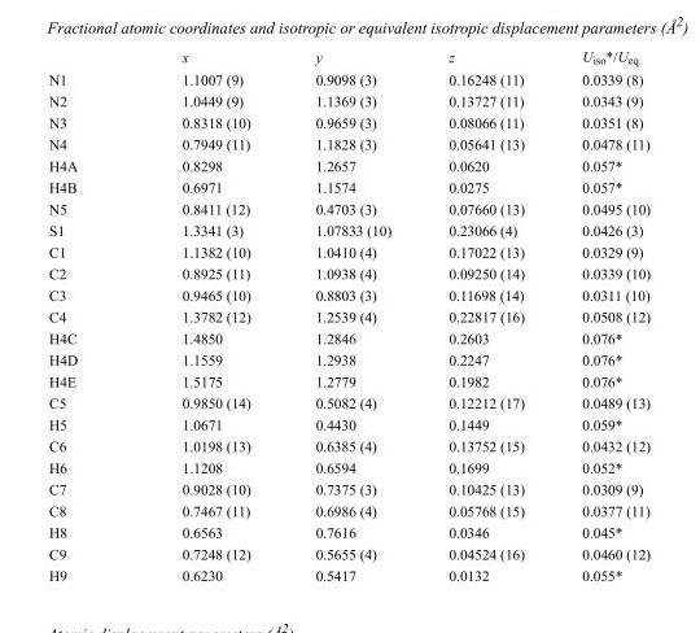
<table><thead><tr><td></td><td>x</td><td>y</td><td>z</td><td>U<sub>iso</sub>*/U<sub>eq</sub></td></tr></thead><tbody><tr><td>N1</td><td>1.1007 (9)</td><td>0.9098 (3)</td><td>0.16248 (11)</td><td>0.0339 (8)</td></tr><tr><td>N2</td><td>1.0449 (9)</td><td>1.1369 (3)</td><td>0.13727 (11)</td><td>0.0343 (9)</td></tr><tr><td>N3</td><td>0.8318 (10)</td><td>0.9659 (3)</td><td>0.08066 (11)</td><td>0.0351 (8)</td></tr><tr><td>N4</td><td>0.7949 (11)</td><td>1.1828 (3)</td><td>0.05641 (13)</td><td>0.0478 (11)</td></tr><tr><td>H4A</td><td>0.8298</td><td>1.2657</td><td>0.0620</td><td>0.057*</td></tr><tr><td>H4B</td><td>0.6971</td><td>1.1574</td><td>0.0275</td><td>0.057*</td></tr><tr><td>N5</td><td>0.8411 (12)</td><td>0.4703 (3)</td><td>0.07660 (13)</td><td>0.0495 (10)</td></tr><tr><td>S1</td><td>1.3341 (3)</td><td>1.07833 (10)</td><td>0.23066 (4)</td><td>0.0426 (3)</td></tr><tr><td>C1</td><td>1.1382 (10)</td><td>1.0410 (4)</td><td>0.17022 (13)</td><td>0.0329 (9)</td></tr><tr><td>C2</td><td>0.8925 (11)</td><td>1.0938 (4)</td><td>0.09250 (14)</td><td>0.0339 (10)</td></tr><tr><td>C3</td><td>0.9465 (10)</td><td>0.8803 (3)</td><td>0.11698 (14)</td><td>0.0311 (10)</td></tr><tr><td>C4</td><td>1.3782 (12)</td><td>1.2539 (4)</td><td>0.22817 (16)</td><td>0.0508 (12)</td></tr><tr><td>H4C</td><td>1.4850</td><td>1.2846</td><td>0.2603</td><td>0.076*</td></tr><tr><td>H4D</td><td>1.1559</td><td>1.2938</td><td>0.2247</td><td>0.076*</td></tr><tr><td>H4E</td><td>1.5175</td><td>1.2779</td><td>0.1982</td><td>0.076*</td></tr><tr><td>C5</td><td>0.9850 (14)</td><td>0.5082 (4)</td><td>0.12212 (17)</td><td>0.0489 (13)</td></tr><tr><td>H5</td><td>1.0671</td><td>0.4430</td><td>0.1449</td><td>0.059*</td></tr><tr><td>C6</td><td>1.0198 (13)</td><td>0.6385 (4)</td><td>0.13752 (15)</td><td>0.0432 (12)</td></tr><tr><td>H6</td><td>1.1208</td><td>0.6594</td><td>0.1699</td><td>0.052*</td></tr><tr><td>C7</td><td>0.9028 (10)</td><td>0.7375 (3)</td><td>0.10425 (13)</td><td>0.0309 (9)</td></tr><tr><td>C8</td><td>0.7467 (11)</td><td>0.6986 (4)</td><td>0.05768 (15)</td><td>0.0377 (11)</td></tr><tr><td>H8</td><td>0.6563</td><td>0.7616</td><td>0.0346</td><td>0.045*</td></tr><tr><td>C9</td><td>0.7248 (12)</td><td>0.5655 (4)</td><td>0.04524 (16)</td><td>0.0460 (12)</td></tr><tr><td>H9</td><td>0.6230</td><td>0.5417</td><td>0.0132</td><td>0.055*</td></tr></tbody></table>